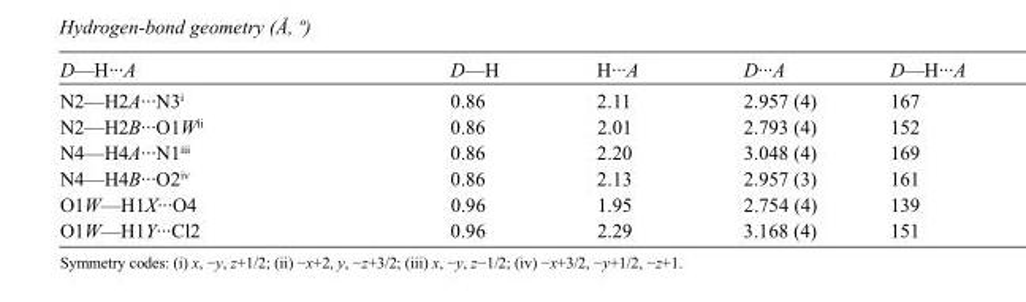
<table><tbody><tr><td>D—H···A</td><td>D—H</td><td>H···A</td><td>D···A</td><td>D—H···A</td></tr><tr><td>N2—H2A···N3<sup>i</sup></td><td>0.86</td><td>2.11</td><td>2.957 (4)</td><td>167</td></tr><tr><td>N2—H2B···O1W<sup>ii</sup></td><td>0.86</td><td>2.01</td><td>2.793 (4)</td><td>152</td></tr><tr><td>N4—H4A···N1<sup>iii</sup></td><td>0.86</td><td>2.20</td><td>3.048 (4)</td><td>169</td></tr><tr><td>N4—H4B···O2<sup>iv</sup></td><td>0.86</td><td>2.13</td><td>2.957 (3)</td><td>161</td></tr><tr><td>O1W—H1X···O4</td><td>0.96</td><td>1.95</td><td>2.754 (4)</td><td>139</td></tr><tr><td>O1W—H1Y···Cl2</td><td>0.96</td><td>2.29</td><td>3.168 (4)</td><td>151</td></tr></tbody></table>